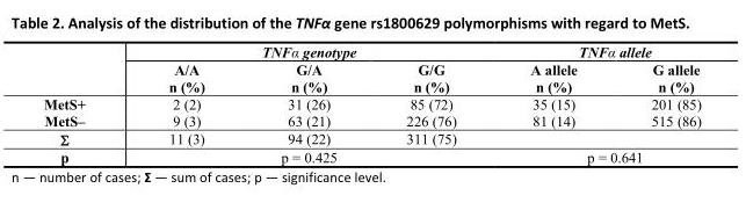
<table><thead><tr><td rowspan="2"></td><td colspan="3">TNFα genotype</td><td colspan="2">TNFα allele</td></tr><tr><td>A/A n (%)</td><td>G/A n (%)</td><td>G/G n (%)</td><td>A allele n (%)</td><td>G allele n (%)</td></tr></thead><tbody><tr><td>MetS+</td><td>2 (2)</td><td>31 (26)</td><td>85 (72)</td><td>35 (15)</td><td>201 (85)</td></tr><tr><td>MetS–</td><td>9 (3)</td><td>63 (21)</td><td>226 (76)</td><td>81 (14)</td><td>515 (86)</td></tr><tr><td>Σ</td><td>11 (3)</td><td>94 (22)</td><td>311 (75)</td><td colspan="2"></td></tr><tr><td>p</td><td colspan="3">p = 0.425</td><td colspan="2">p = 0.641</td></tr></tbody></table>